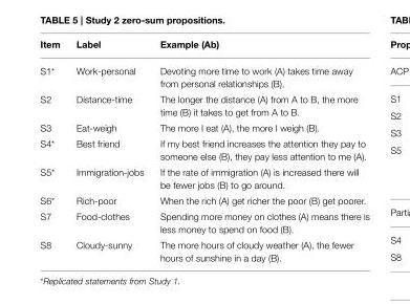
<table><thead><tr><td>Item</td><td>Label</td><td>Example (Ab)</td></tr></thead><tbody><tr><td>S1*</td><td>Work-personal</td><td>Devoting more time to work (A) takes time away from personal relationships (B).</td></tr><tr><td>S2</td><td>Distance-time</td><td>The longer the distance (A) from A to B, the more time (B) it takes to get from A to B.</td></tr><tr><td>S3</td><td>Eat-weigh</td><td>The more I eat (A), the more I weigh (B).</td></tr><tr><td>S4*</td><td>Best friend</td><td>If my best friend increases the attention they pay to someone else (B), they pay less attention to me (A).</td></tr><tr><td>S5*</td><td>Immigration-jobs</td><td>If the rate of immigration (A) is increased there will be fewer jobs (B) to go around.</td></tr><tr><td>S6*</td><td>Rich-poor</td><td>When the rich (A) get richer the poor (B) get poorer.</td></tr><tr><td>S7</td><td>Food-clothes</td><td>Spending more money on clothes (A) means there is less money to spend on food (B).</td></tr><tr><td>S8</td><td>Cloudy-sunny</td><td>The more hours of cloudy weather (A), the fewer hours of sunshine in a day (B).</td></tr></tbody></table>